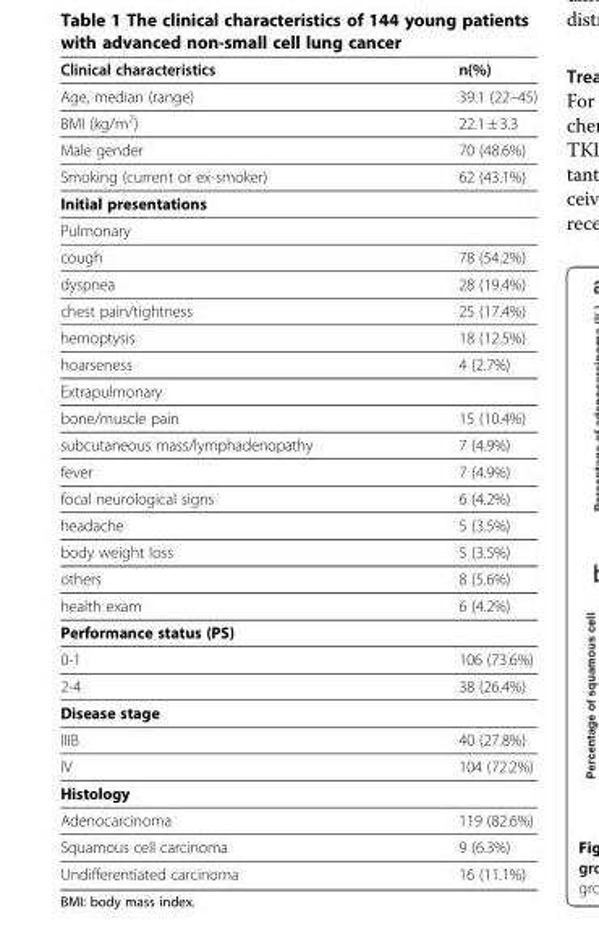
<table><thead><tr><td>Clinical characteristics</td><td>n(%)</td></tr></thead><tbody><tr><td>Age, median (range)</td><td>39.1 (22–45)</td></tr><tr><td>BMI (kg/m<sup>2</sup>)</td><td>22.1 ± 3.3</td></tr><tr><td>Male gender</td><td>70 (48.6%)</td></tr><tr><td>Smoking (current or ex-smoker)</td><td>62 (43.1%)</td></tr><tr><td colspan="2">Initial presentations</td></tr><tr><td colspan="2">Pulmonary</td></tr><tr><td>cough</td><td>78 (54.2%)</td></tr><tr><td>dyspnea</td><td>28 (19.4%)</td></tr><tr><td>chest pain/tightness</td><td>25 (17.4%)</td></tr><tr><td>hemoptysis</td><td>18 (12.5%)</td></tr><tr><td>hoarseness</td><td>4 (2.7%)</td></tr><tr><td colspan="2">Extrapulmonary</td></tr><tr><td>bone/muscle pain</td><td>15 (10.4%)</td></tr><tr><td>subcutaneous mass/lymphadenopathy</td><td>7 (4.9%)</td></tr><tr><td>fever</td><td>7 (4.9%)</td></tr><tr><td>focal neurological signs</td><td>6 (4.2%)</td></tr><tr><td>headache</td><td>5 (3.5%)</td></tr><tr><td>body weight loss</td><td>5 (3.5%)</td></tr><tr><td>others</td><td>8 (5.6%)</td></tr><tr><td>health exam</td><td>6 (4.2%)</td></tr><tr><td colspan="2">Performance status (PS)</td></tr><tr><td>0-1</td><td>106 (73.6%)</td></tr><tr><td>2-4</td><td>38 (26.4%)</td></tr><tr><td colspan="2">Disease stage</td></tr><tr><td>IIIB</td><td>40 (27.8%)</td></tr><tr><td>IV</td><td>104 (72.2%)</td></tr><tr><td colspan="2">Histology</td></tr><tr><td>Adenocarcinoma</td><td>119 (82.6%)</td></tr><tr><td>Squamous cell carcinoma</td><td>9 (6.3%)</td></tr><tr><td>Undifferentiated carcinoma</td><td>16 (11.1%)</td></tr></tbody></table>